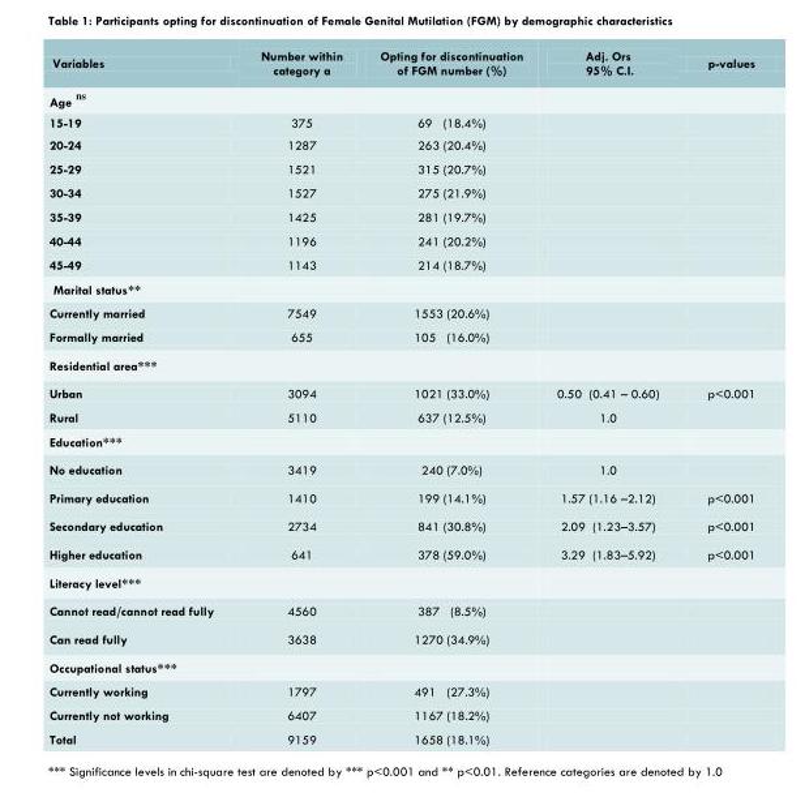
<table><thead><tr><td>Variables</td><td>Number within category a</td><td>Opting for discontinuation of FGM number (%)</td><td>Adj. Ors 95% C.I.</td><td>p-values</td></tr></thead><tbody><tr><td colspan="5">Age <sup>ns</sup></td></tr><tr><td>15-19</td><td>375</td><td>69 (18.4%)</td><td></td><td></td></tr><tr><td>20-24</td><td>1287</td><td>263 (20.4%)</td><td></td><td></td></tr><tr><td>25-29</td><td>1521</td><td>315 (20.7%)</td><td></td><td></td></tr><tr><td>30-34</td><td>1527</td><td>275 (21.9%)</td><td></td><td></td></tr><tr><td>35-39</td><td>1425</td><td>281 (19.7%)</td><td></td><td></td></tr><tr><td>40-44</td><td>1196</td><td>241 (20.2%)</td><td></td><td></td></tr><tr><td>45-49</td><td>1143</td><td>214 (18.7%)</td><td></td><td></td></tr><tr><td colspan="5">Marital status**</td></tr><tr><td>Currently married</td><td>7549</td><td>1553 (20.6%)</td><td></td><td></td></tr><tr><td>Formally married</td><td>655</td><td>105 (16.0%)</td><td></td><td></td></tr><tr><td colspan="5">Residential area***</td></tr><tr><td>Urban</td><td>3094</td><td>1021 (33.0%)</td><td>0.50 (0.41 – 0.60)</td><td>p&lt;0.001</td></tr><tr><td>Rural</td><td>5110</td><td>637 (12.5%)</td><td>1.0</td><td></td></tr><tr><td colspan="5">Education***</td></tr><tr><td>No education</td><td>3419</td><td>240 (7.0%)</td><td>1.0</td><td></td></tr><tr><td>Primary education</td><td>1410</td><td>199 (14.1%)</td><td>1.57 (1.16 –2.12)</td><td>p&lt;0.001</td></tr><tr><td>Secondary education</td><td>2734</td><td>841 (30.8%)</td><td>2.09 (1.23–3.57)</td><td>p&lt;0.001</td></tr><tr><td>Higher education</td><td>641</td><td>378 (59.0%)</td><td>3.29 (1.83–5.92)</td><td>p&lt;0.001</td></tr><tr><td colspan="5">Literacy level***</td></tr><tr><td>Cannot read/cannot read fully</td><td>4560</td><td>387 (8.5%)</td><td></td><td></td></tr><tr><td>Can read fully</td><td>3638</td><td>1270 (34.9%)</td><td></td><td></td></tr><tr><td colspan="5">Occupational status***</td></tr><tr><td>Currently working</td><td>1797</td><td>491 (27.3%)</td><td></td><td></td></tr><tr><td>Currently not working</td><td>6407</td><td>1167 (18.2%)</td><td></td><td></td></tr><tr><td>Total</td><td>9159</td><td>1658 (18.1%)</td><td></td><td></td></tr></tbody></table>